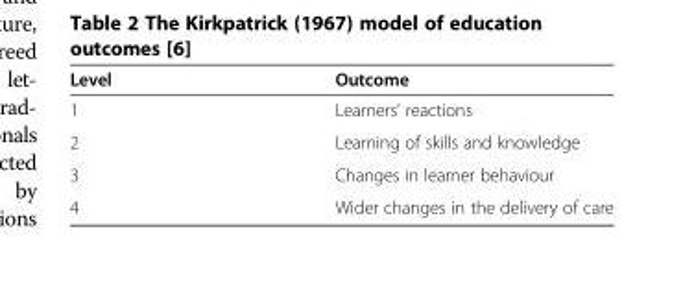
<table><thead><tr><td>Level</td><td>Outcome</td></tr></thead><tbody><tr><td>1</td><td>Learners’ reactions</td></tr><tr><td>2</td><td>Learning of skills and knowledge</td></tr><tr><td>3</td><td>Changes in learner behaviour</td></tr><tr><td>4</td><td>Wider changes in the delivery of care</td></tr></tbody></table>